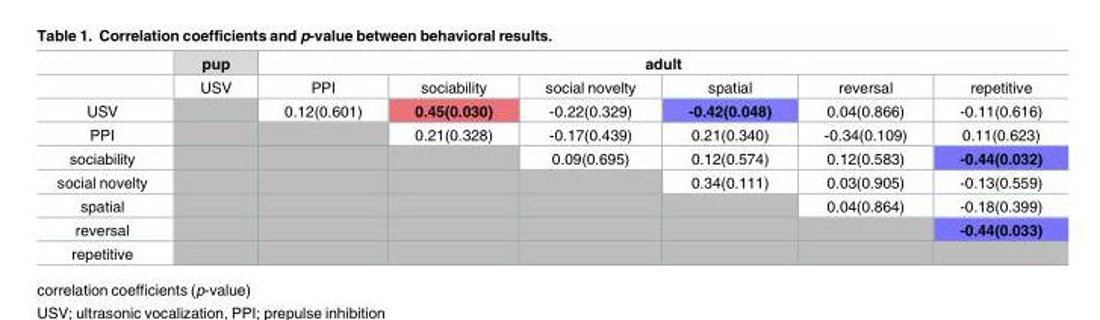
<table><thead><tr><td rowspan="2"></td><td rowspan="2">pup USV</td><td colspan="6">adult</td></tr><tr><td>PPI</td><td>sociability</td><td>social novelty</td><td>spatial</td><td>reversal</td><td>repetitive</td></tr></thead><tbody><tr><td>USV</td><td></td><td>0.12(0.601)</td><td>0.45(0.030)</td><td>-0.22(0.329)</td><td>-0.42(0.048)</td><td>0.04(0.866)</td><td>-0.11(0.616)</td></tr><tr><td>PPI</td><td></td><td></td><td>0.21(0.328)</td><td>-0.17(0.439)</td><td>0.21(0.340)</td><td>-0.34(0.109)</td><td>0.11(0.623)</td></tr><tr><td>sociability</td><td></td><td></td><td></td><td>0.09(0.695)</td><td>0.12(0.574)</td><td>0.12(0.583)</td><td>-0.44(0.032)</td></tr><tr><td>social novelty</td><td></td><td></td><td></td><td></td><td>0.34(0.111)</td><td>0.03(0.905)</td><td>-0.13(0.559)</td></tr><tr><td>spatial</td><td></td><td></td><td></td><td></td><td></td><td>0.04(0.864)</td><td>-0.18(0.399)</td></tr><tr><td>reversal</td><td></td><td></td><td></td><td></td><td></td><td></td><td>-0.44(0.033)</td></tr><tr><td>repetitive</td><td></td><td></td><td></td><td></td><td></td><td></td><td></td></tr></tbody></table>